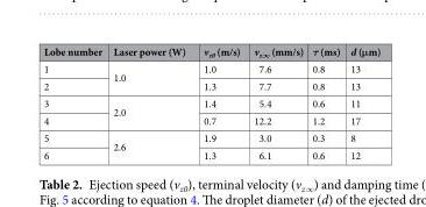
<table><thead><tr><td>Lobe number</td><td>Laser power (W)</td><td>v<sub>z0</sub> (m/s)</td><td>v<sub>z∞</sub> (mm/s)</td><td>τ (ms)</td><td>d (μm)</td></tr></thead><tbody><tr><td>1</td><td rowspan="2">1.0</td><td>1.0</td><td>7.6</td><td>0.8</td><td>13</td></tr><tr><td>2</td><td>1.3</td><td>7.7</td><td>0.8</td><td>13</td></tr><tr><td>3</td><td rowspan="2">2.0</td><td>1.4</td><td>5.4</td><td>0.6</td><td>11</td></tr><tr><td>4</td><td>0.7</td><td>12.2</td><td>1.2</td><td>17</td></tr><tr><td>5</td><td rowspan="2">2.6</td><td>1.9</td><td>3.0</td><td>0.3</td><td>8</td></tr><tr><td>6</td><td>1.3</td><td>6.1</td><td>0.6</td><td>12</td></tr></tbody></table>